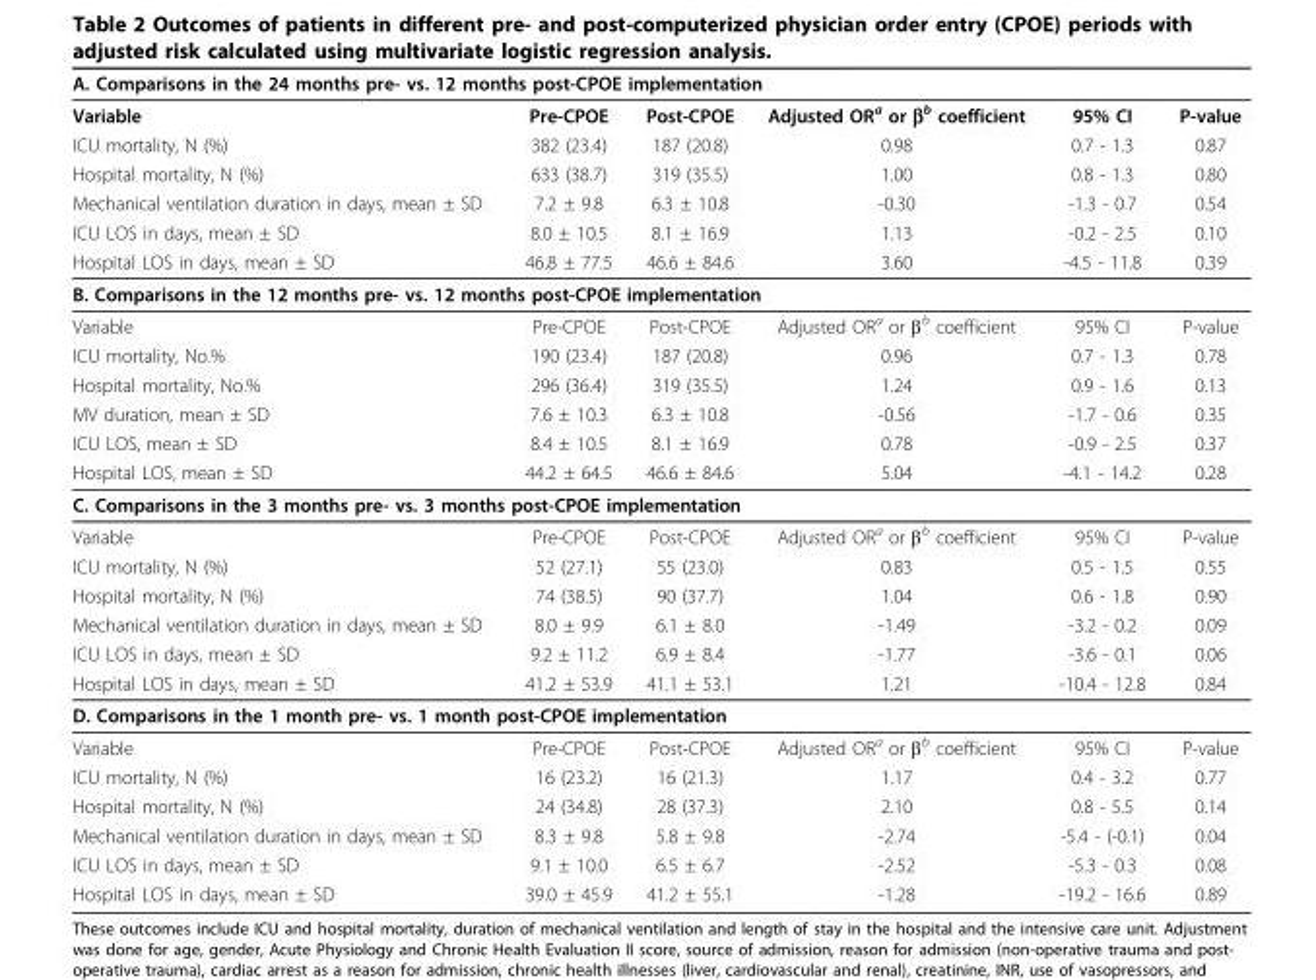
<table><thead><tr><td colspan="6">A. Comparisons in the 24 months pre- vs. 12 months post-CPOE implementation</td></tr><tr><td>Variable</td><td>Pre-CPOE</td><td>Post-CPOE</td><td>Adjusted OR<sup>a</sup> or β<sup>b</sup> coefficient</td><td>95% CI</td><td>P-value</td></tr></thead><tbody><tr><td>ICU mortality, N (%)</td><td>382 (23.4)</td><td>187 (20.8)</td><td>0.98</td><td>0.7 - 1.3</td><td>0.87</td></tr><tr><td>Hospital mortality, N (%)</td><td>633 (38.7)</td><td>319 (35.5)</td><td>1.00</td><td>0.8 - 1.3</td><td>0.80</td></tr><tr><td>Mechanical ventilation duration in days, mean ± SD</td><td>7.2 ± 9.8</td><td>6.3 ± 10.8</td><td>-0.30</td><td>-1.3 - 0.7</td><td>0.54</td></tr><tr><td>ICU LOS in days, mean ± SD</td><td>8.0 ± 10.5</td><td>8.1 ± 16.9</td><td>1.13</td><td>-0.2 - 2.5</td><td>0.10</td></tr><tr><td>Hospital LOS in days, mean ± SD</td><td>46.8 ± 77.5</td><td>46.6 ± 84.6</td><td>3.60</td><td>-4.5 - 11.8</td><td>0.39</td></tr><tr><td colspan="6">B. Comparisons in the 12 months pre- vs. 12 months post-CPOE implementation</td></tr><tr><td>Variable</td><td>Pre-CPOE</td><td>Post-CPOE</td><td>Adjusted OR<sup>a</sup> or β<sup>b</sup> coefficient</td><td>95% CI</td><td>P-value</td></tr><tr><td>ICU mortality, No.%</td><td>190 (23.4)</td><td>187 (20.8)</td><td>0.96</td><td>0.7 - 1.3</td><td>0.78</td></tr><tr><td>Hospital mortality, No.%</td><td>296 (36.4)</td><td>319 (35.5)</td><td>1.24</td><td>0.9 - 1.6</td><td>0.13</td></tr><tr><td>MV duration, mean ± SD</td><td>7.6 ± 10.3</td><td>6.3 ± 10.8</td><td>-0.56</td><td>-1.7 - 0.6</td><td>0.35</td></tr><tr><td>ICU LOS, mean ± SD</td><td>8.4 ± 10.5</td><td>8.1 ± 16.9</td><td>0.78</td><td>-0.9 - 2.5</td><td>0.37</td></tr><tr><td>Hospital LOS, mean ± SD</td><td>44.2 ± 64.5</td><td>46.6 ± 84.6</td><td>5.04</td><td>-4.1 - 14.2</td><td>0.28</td></tr><tr><td colspan="6">C. Comparisons in the 3 months pre- vs. 3 months post-CPOE implementation</td></tr><tr><td>Variable</td><td>Pre-CPOE</td><td>Post-CPOE</td><td>Adjusted OR<sup>a</sup> or β<sup>b</sup> coefficient</td><td>95% CI</td><td>P-value</td></tr><tr><td>ICU mortality, N (%)</td><td>52 (27.1)</td><td>55 (23.0)</td><td>0.83</td><td>0.5 - 1.5</td><td>0.55</td></tr><tr><td>Hospital mortality, N (%)</td><td>74 (38.5)</td><td>90 (37.7)</td><td>1.04</td><td>0.6 - 1.8</td><td>0.90</td></tr><tr><td>Mechanical ventilation duration in days, mean ± SD</td><td>8.0 ± 9.9</td><td>6.1 ± 8.0</td><td>-1.49</td><td>-3.2 - 0.2</td><td>0.09</td></tr><tr><td>ICU LOS in days, mean ± SD</td><td>9.2 ± 11.2</td><td>6.9 ± 8.4</td><td>-1.77</td><td>-3.6 - 0.1</td><td>0.06</td></tr><tr><td>Hospital LOS in days, mean ± SD</td><td>41.2 ± 53.9</td><td>41.1 ± 53.1</td><td>1.21</td><td>-10.4 - 12.8</td><td>0.84</td></tr><tr><td colspan="6">D. Comparisons in the 1 month pre- vs. 1 month post-CPOE implementation</td></tr><tr><td>Variable</td><td>Pre-CPOE</td><td>Post-CPOE</td><td>Adjusted OR<sup>a</sup> or β<sup>b</sup> coefficient</td><td>95% CI</td><td>P-value</td></tr><tr><td>ICU mortality, N (%)</td><td>16 (23.2)</td><td>16 (21.3)</td><td>1.17</td><td>0.4 - 3.2</td><td>0.77</td></tr><tr><td>Hospital mortality, N (%)</td><td>24 (34.8)</td><td>28 (37.3)</td><td>2.10</td><td>0.8 - 5.5</td><td>0.14</td></tr><tr><td>Mechanical ventilation duration in days, mean ± SD</td><td>8.3 ± 9.8</td><td>5.8 ± 9.8</td><td>-2.74</td><td>-5.4 - (-0.1)</td><td>0.04</td></tr><tr><td>ICU LOS in days, mean ± SD</td><td>9.1 ± 10.0</td><td>6.5 ± 6.7</td><td>-2.52</td><td>-5.3 - 0.3</td><td>0.08</td></tr><tr><td>Hospital LOS in days, mean ± SD</td><td>39.0 ± 45.9</td><td>41.2 ± 55.1</td><td>-1.28</td><td>-19.2 - 16.6</td><td>0.89</td></tr></tbody></table>